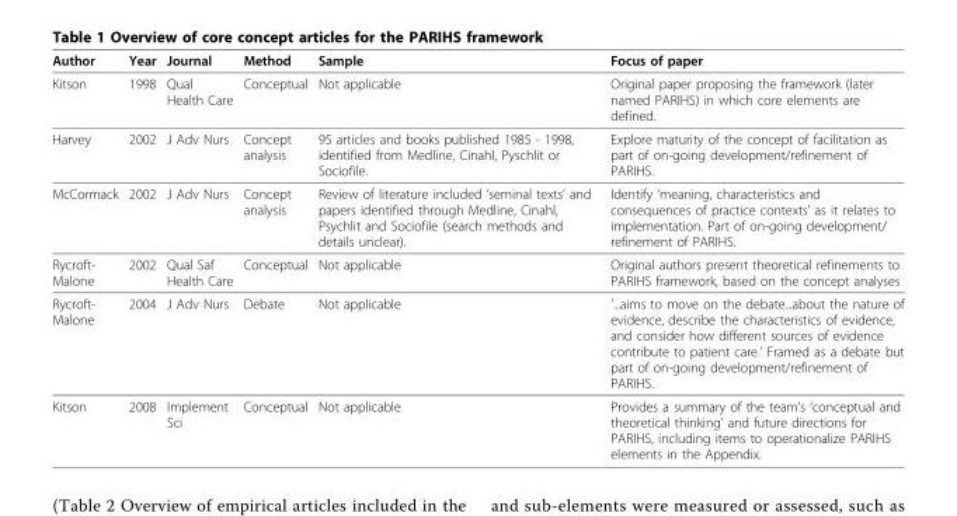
<table><thead><tr><td>Author</td><td>Year</td><td>Journal</td><td>Method</td><td>Sample</td><td>Focus of paper</td></tr></thead><tbody><tr><td>Kitson</td><td>1998</td><td>Qual Health Care</td><td>Conceptual</td><td>Not applicable</td><td>Original paper proposing the framework (later named PARIHS) in which core elements are defined.</td></tr><tr><td>Harvey</td><td>2002</td><td>J Adv Nurs</td><td>Concept analysis</td><td>95 articles and books published 1985 - 1998, identified from Medline, Cinahl, Pyschlit or Sociofile.</td><td>Explore maturity of the concept of facilitation as part of on-going development/refinement of PARIHS.</td></tr><tr><td>McCormack</td><td>2002</td><td>J Adv Nurs</td><td>Concept analysis</td><td>Review of literature included ‘seminal texts’ and papers identified through Medline, Cinahl, Psychlit and Sociofile (search methods and details unclear).</td><td>Identify ‘meaning, characteristics and consequences of practice contexts’ as it relates to implementation. Part of on-going development/ refinement of PARIHS.</td></tr><tr><td>Rycroft- Malone</td><td>2002</td><td>Qual Saf Health Care</td><td>Conceptual</td><td>Not applicable</td><td>Original authors present theoretical refinements to PARIHS framework, based on the concept analyses</td></tr><tr><td>Rycroft- Malone</td><td>2004</td><td>J Adv Nurs</td><td>Debate</td><td>Not applicable</td><td>’...aims to move on the debate...about the nature of evidence, describe the characteristics of evidence, and consider how different sources of evidence contribute to patient care.’ Framed as a debate but part of on-going development/refinement of PARIHS.</td></tr><tr><td>Kitson</td><td>2008</td><td>Implement Sci</td><td>Conceptual</td><td>Not applicable</td><td>Provides a summary of the team’s ‘conceptual and theoretical thinking’ and future directions for PARIHS, including items to operationalize PARIHS elements in the Appendix.</td></tr></tbody></table>